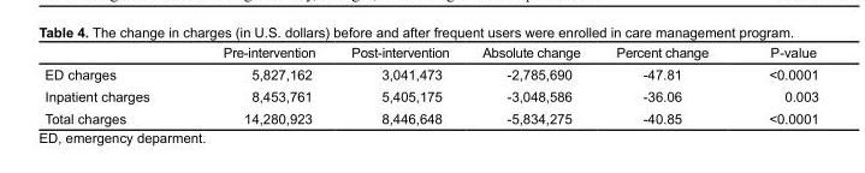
<table><thead><tr><td></td><td>Pre-intervention</td><td>Post-intervention</td><td>Absolute change</td><td>Percent change</td><td>P-value</td></tr></thead><tbody><tr><td>ED charges</td><td>5,827,162</td><td>3,041,473</td><td>-2,785,690</td><td>-47.81</td><td>&lt;0.0001</td></tr><tr><td>Inpatient charges</td><td>8,453,761</td><td>5,405,175</td><td>-3,048,586</td><td>-36.06</td><td>0.003</td></tr><tr><td>Total charges</td><td>14,280,923</td><td>8,446,648</td><td>-5,834,275</td><td>-40.85</td><td>&lt;0.0001</td></tr></tbody></table>